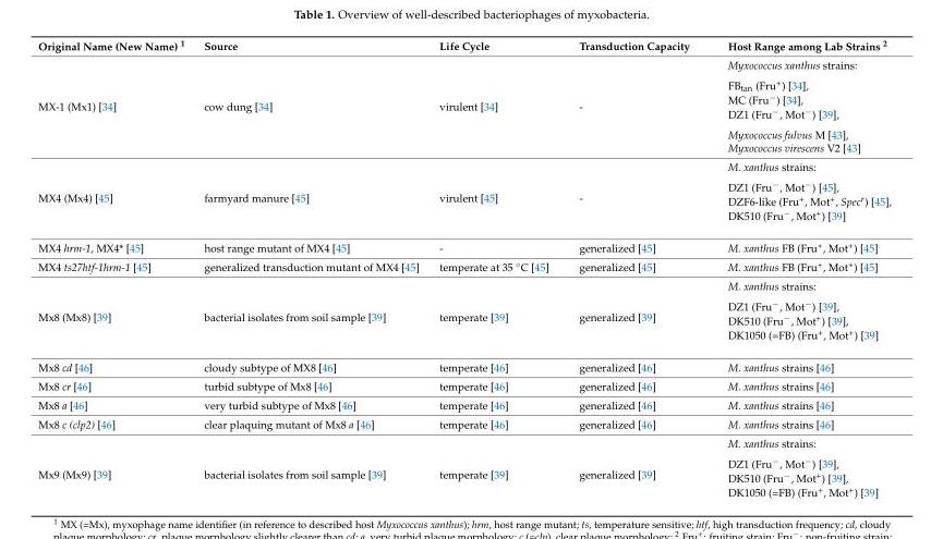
<table><thead><tr><td>Original Name (New Name) <sup>1</sup></td><td>Source</td><td>Life Cycle</td><td>Transduction Capacity</td><td>Host Range among Lab Strains <sup>2</sup></td></tr></thead><tbody><tr><td>MX-1 (Mx1) [34]</td><td>cow dung [34]</td><td>virulent [34]</td><td>-</td><td>Myxococcus xanthus strains: FB<sub>tan</sub> (Fru<sup>+</sup>) [34], MC (Fru<sup>−</sup>) [34], DZ1 (Fru<sup>−</sup>, Mot<sup>−</sup>) [39], Myxococcus fulvus M [43], Myxococcus virescens V2 [43]</td></tr><tr><td>MX4 (Mx4) [45]</td><td>farmyard manure [45]</td><td>virulent [45]</td><td>-</td><td>M. xanthus strains: DZ1 (Fru<sup>−</sup>, Mot<sup>−</sup>) [45], DZF6-like (Fru<sup>+</sup>, Mot<sup>+</sup>, Spec<sup>r</sup>) [45], DK510 (Fru<sup>−</sup>, Mot<sup>+</sup>) [39]</td></tr><tr><td>MX4 hrm-1, MX4* [45]</td><td>host range mutant of MX4 [45]</td><td>-</td><td>generalized [45]</td><td>M. xanthus FB (Fru<sup>+</sup>, Mot<sup>+</sup>) [45]</td></tr><tr><td>MX4 ts27htf-1hrm-1 [45]</td><td>generalized transduction mutant of MX4 [45]</td><td>temperate at 35 ◦C [45]</td><td>generalized [45]</td><td>M. xanthus FB (Fru<sup>+</sup>, Mot<sup>+</sup>) [45]</td></tr><tr><td>Mx8 (Mx8) [39]</td><td>bacterial isolates from soil sample [39]</td><td>temperate [39]</td><td>generalized [39]</td><td>M. xanthus strains: DZ1 (Fru<sup>−</sup>, Mot<sup>−</sup>) [39], DK510 (Fru<sup>−</sup>, Mot<sup>+</sup>) [39], DK1050 (=FB) (Fru<sup>+</sup>, Mot<sup>+</sup>) [39]</td></tr><tr><td>Mx8 cd [46]</td><td>cloudy subtype of MX8 [46]</td><td>temperate [46]</td><td>generalized [46]</td><td>M. xanthus strains [46]</td></tr><tr><td>Mx8 cr [46]</td><td>turbid subtype of Mx8 [46]</td><td>temperate [46]</td><td>generalized [46]</td><td>M. xanthus strains [46]</td></tr><tr><td>Mx8 a [46]</td><td>very turbid subtype of Mx8 [46]</td><td>temperate [46]</td><td>generalized [46]</td><td>M. xanthus strains [46]</td></tr><tr><td>Mx8 c (clp2) [46]</td><td>clear plaquing mutant of Mx8 a [46]</td><td>temperate [46]</td><td>generalized [46]</td><td>M. xanthus strains [46]</td></tr><tr><td>Mx9 (Mx9) [39]</td><td>bacterial isolates from soil sample [39]</td><td>temperate [39]</td><td>generalized [39]</td><td>M. xanthus strains: DZ1 (Fru<sup>−</sup>, Mot<sup>−</sup>) [39], DK510 (Fru<sup>−</sup>, Mot<sup>+</sup>) [39], DK1050 (=FB) (Fru<sup>+</sup>, Mot<sup>+</sup>) [39]</td></tr></tbody></table>